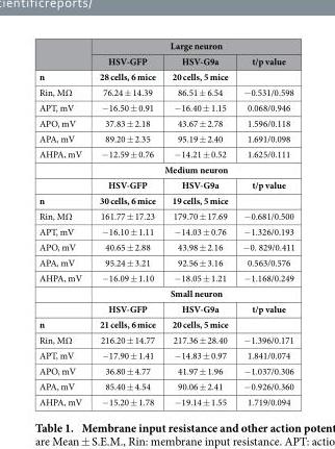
<table><thead><tr><td rowspan="2"></td><td colspan="3">Large neuron</td></tr><tr><td>HSV-GFP</td><td>HSV-G9a</td><td>t/p value</td></tr></thead><tbody><tr><td>n</td><td>28 cells, 6 mice</td><td>20 cells, 5 mice</td><td></td></tr><tr><td>Rin, MΩ</td><td>76.24 ± 14.39</td><td>86.51 ± 6.54</td><td>− 0.531/0.598</td></tr><tr><td>APT, mV</td><td>− 16.50 ± 0.91</td><td>− 16.40 ± 1.15</td><td>0.068/0.946</td></tr><tr><td>APO, mV</td><td>37.83 ± 2.18</td><td>43.67 ± 2.78</td><td>1.596/0.118</td></tr><tr><td>APA, mV</td><td>89.20 ± 2.35</td><td>95.19 ± 2.40</td><td>1.691/0.098</td></tr><tr><td rowspan="3">AHPA, mV</td><td>− 12.59 ± 0.76</td><td>− 14.21 ± 0.52</td><td>1.625/0.111</td></tr><tr><td colspan="3">Medium neuron</td></tr><tr><td>HSV-GFP</td><td>HSV-G9a</td><td>t/p value</td></tr><tr><td>n</td><td>30 cells, 6 mice</td><td>19 cells, 5 mice</td><td></td></tr><tr><td>Rin, MΩ</td><td>161.77 ± 17.23</td><td>179.70 ± 17.69</td><td>− 0.681/0.500</td></tr><tr><td>APT, mV</td><td>− 16.10 ± 1.11</td><td>− 14.03 ± 0.76</td><td>− 1.326/0.193</td></tr><tr><td>APO, mV</td><td>40.65 ± 2.88</td><td>43.98 ± 2.16</td><td>− 0. 829/0.411</td></tr><tr><td>APA, mV</td><td>95.24 ± 3.21</td><td>92.56 ± 3.16</td><td>0.563/0.576</td></tr><tr><td rowspan="3">AHPA, mV</td><td>− 16.09 ± 1.10</td><td>− 18.05 ± 1.21</td><td>− 1.168/0.249</td></tr><tr><td colspan="3">Small neuron</td></tr><tr><td>HSV-GFP</td><td>HSV-G9a</td><td>t/p value</td></tr><tr><td>n</td><td>21 cells, 6 mice</td><td>20 cells, 5 mice</td><td></td></tr><tr><td>Rin, MΩ</td><td>216.20 ± 14.77</td><td>217.36 ± 28.40</td><td>− 1.396/0.171</td></tr><tr><td>APT, mV</td><td>− 17.90 ± 1.41</td><td>− 14.83 ± 0.97</td><td>1.841/0.074</td></tr><tr><td>APO, mV</td><td>36.80 ± 4.77</td><td>41.97 ± 1.96</td><td>− 1.037/0.306</td></tr><tr><td>APA, mV</td><td>85.40 ± 4.54</td><td>90.06 ± 2.41</td><td>− 0.926/0.360</td></tr><tr><td>AHPA, mV</td><td>− 15.20 ± 1.78</td><td>− 19.14 ± 1.55</td><td>1.719/0.094</td></tr></tbody></table>